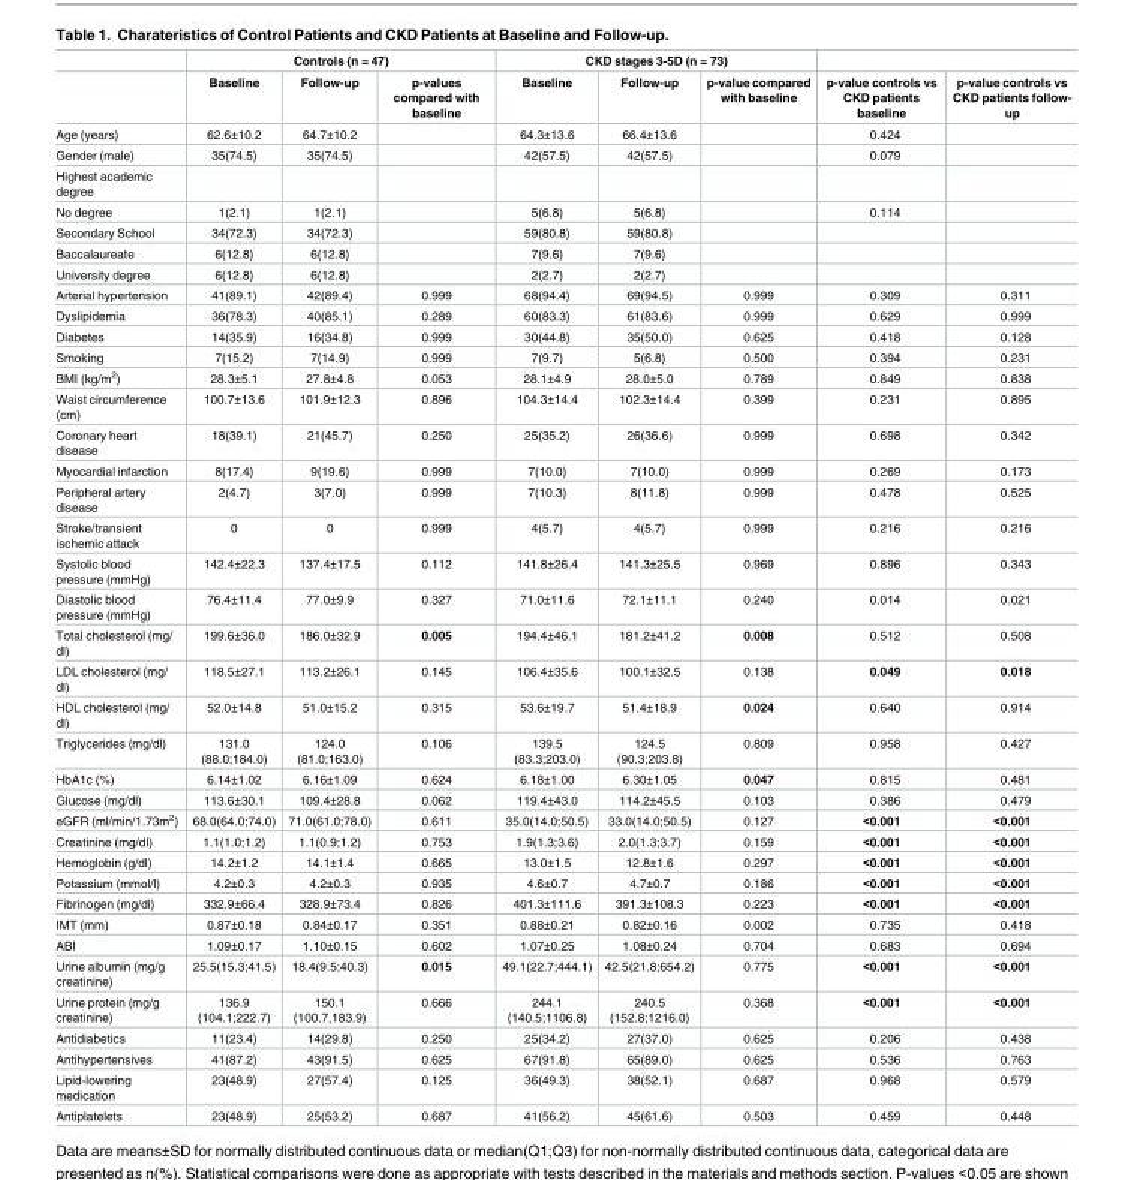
<table><thead><tr><td rowspan="2"></td><td colspan="3">Controls (n = 47)</td><td colspan="3">CKD stages 3-5D (n = 73)</td><td rowspan="2">p-value controls vs CKD patients baseline</td><td rowspan="2">p-value controls vs CKD patients follow- up</td></tr><tr><td>Baseline</td><td>Follow-up</td><td>p-values compared with baseline</td><td>Baseline</td><td>Follow-up</td><td>p-value compared with baseline</td></tr></thead><tbody><tr><td>Age (years)</td><td>62.6±10.2</td><td>64.7±10.2</td><td></td><td>64.3±13.6</td><td>66.4±13.6</td><td></td><td>0.424</td><td></td></tr><tr><td>Gender (male)</td><td>35(74.5)</td><td>35(74.5)</td><td></td><td>42(57.5)</td><td>42(57.5)</td><td></td><td>0.079</td><td></td></tr><tr><td colspan="9">Highest academic degree</td></tr><tr><td>No degree</td><td>1(2.1)</td><td>1(2.1)</td><td></td><td>5(6.8)</td><td>5(6.8)</td><td></td><td>0.114</td><td></td></tr><tr><td>Secondary School</td><td>34(72.3)</td><td>34(72.3)</td><td></td><td>59(80.8)</td><td>59(80.8)</td><td></td><td></td><td></td></tr><tr><td>Baccalaureate</td><td>6(12.8)</td><td>6(12.8)</td><td></td><td>7(9.6)</td><td>7(9.6)</td><td></td><td></td><td></td></tr><tr><td>University degree</td><td>6(12.8)</td><td>6(12.8)</td><td></td><td>2(2.7)</td><td>2(2.7)</td><td></td><td></td><td></td></tr><tr><td>Arterial hypertension</td><td>41(89.1)</td><td>42(89.4)</td><td>0.999</td><td>68(94.4)</td><td>69(94.5)</td><td>0.999</td><td>0.309</td><td>0.311</td></tr><tr><td>Dyslipidemia</td><td>36(78.3)</td><td>40(85.1)</td><td>0.289</td><td>60(83.3)</td><td>61(83.6)</td><td>0.999</td><td>0.629</td><td>0.999</td></tr><tr><td>Diabetes</td><td>14(35.9)</td><td>16(34.8)</td><td>0.999</td><td>30(44.8)</td><td>35(50.0)</td><td>0.625</td><td>0.418</td><td>0.128</td></tr><tr><td>Smoking</td><td>7(15.2)</td><td>7(14.9)</td><td>0.999</td><td>7(9.7)</td><td>5(6.8)</td><td>0.500</td><td>0.394</td><td>0.231</td></tr><tr><td>BMI (kg/m<sup>2</sup>)</td><td>28.3±5.1</td><td>27.8±4.8</td><td>0.053</td><td>28.1±4.9</td><td>28.0±5.0</td><td>0.789</td><td>0.849</td><td>0.838</td></tr><tr><td>Waist circumference (cm)</td><td>100.7±13.6</td><td>101.9±12.3</td><td>0.896</td><td>104.3±14.4</td><td>102.3±14.4</td><td>0.399</td><td>0.231</td><td>0.895</td></tr><tr><td>Coronary heart disease</td><td>18(39.1)</td><td>21(45.7)</td><td>0.250</td><td>25(35.2)</td><td>26(36.6)</td><td>0.999</td><td>0.698</td><td>0.342</td></tr><tr><td>Myocardial infarction</td><td>8(17.4)</td><td>9(19.6)</td><td>0.999</td><td>7(10.0)</td><td>7(10.0)</td><td>0.999</td><td>0.269</td><td>0.173</td></tr><tr><td>Peripheral artery disease</td><td>2(4.7)</td><td>3(7.0)</td><td>0.999</td><td>7(10.3)</td><td>8(11.8)</td><td>0.999</td><td>0.478</td><td>0.525</td></tr><tr><td>Stroke/transient ischemic attack</td><td>0</td><td>0</td><td>0.999</td><td>4(5.7)</td><td>4(5.7)</td><td>0.999</td><td>0.216</td><td>0.216</td></tr><tr><td>Systolic blood pressure (mmHg)</td><td>142.4±22.3</td><td>137.4±17.5</td><td>0.112</td><td>141.8±26.4</td><td>141.3±25.5</td><td>0.969</td><td>0.896</td><td>0.343</td></tr><tr><td>Diastolic blood pressure (mmHg)</td><td>76.4±11.4</td><td>77.0±9.9</td><td>0.327</td><td>71.0±11.6</td><td>72.1±11.1</td><td>0.240</td><td>0.014</td><td>0.021</td></tr><tr><td>Total cholesterol (mg/ dl)</td><td>199.6±36.0</td><td>186.0±32.9</td><td>0.005</td><td>194.4±46.1</td><td>181.2±41.2</td><td>0.008</td><td>0.512</td><td>0.508</td></tr><tr><td>LDL cholesterol (mg/ dl)</td><td>118.5±27.1</td><td>113.2±26.1</td><td>0.145</td><td>106.4±35.6</td><td>100.1±32.5</td><td>0.138</td><td>0.049</td><td>0.018</td></tr><tr><td>HDL cholesterol (mg/ dl)</td><td>52.0±14.8</td><td>51.0±15.2</td><td>0.315</td><td>53.6±19.7</td><td>51.4±18.9</td><td>0.024</td><td>0.640</td><td>0.914</td></tr><tr><td>Triglycerides (mg/dl)</td><td>131.0 (88.0;184.0)</td><td>124.0 (81.0;163.0)</td><td>0.106</td><td>139.5 (83.3;203.0)</td><td>124.5 (90.3;203.8)</td><td>0.809</td><td>0.958</td><td>0.427</td></tr><tr><td>HbA1c (%)</td><td>6.14±1.02</td><td>6.16±1.09</td><td>0.624</td><td>6.18±1.00</td><td>6.30±1.05</td><td>0.047</td><td>0.815</td><td>0.481</td></tr><tr><td>Glucose (mg/dl)</td><td>113.6±30.1</td><td>109.4±28.8</td><td>0.062</td><td>119.4±43.0</td><td>114.2±45.5</td><td>0.103</td><td>0.386</td><td>0.479</td></tr><tr><td>eGFR (ml/min/1.73m<sup>2</sup>)</td><td>68.0(64.0;74.0)</td><td>71.0(61.0;78.0)</td><td>0.611</td><td>35.0(14.0;50.5)</td><td>33.0(14.0;50.5)</td><td>0.127</td><td>&lt;0.001</td><td>&lt;0.001</td></tr><tr><td>Creatinine (mg/dl)</td><td>1.1(1.0;1.2)</td><td>1.1(0.9;1.2)</td><td>0.753</td><td>1.9(1.3;3.6)</td><td>2.0(1.3;3.7)</td><td>0.159</td><td>&lt;0.001</td><td>&lt;0.001</td></tr><tr><td>Hemoglobin (g/dl)</td><td>14.2±1.2</td><td>14.1±1.4</td><td>0.665</td><td>13.0±1.5</td><td>12.8±1.6</td><td>0.297</td><td>&lt;0.001</td><td>&lt;0.001</td></tr><tr><td>Potassium (mmol/l)</td><td>4.2±0.3</td><td>4.2±0.3</td><td>0.935</td><td>4.6±0.7</td><td>4.7±0.7</td><td>0.186</td><td>&lt;0.001</td><td>&lt;0.001</td></tr><tr><td>Fibrinogen (mg/dl)</td><td>332.9±66.4</td><td>328.9±73.4</td><td>0.826</td><td>401.3±111.6</td><td>391.3±108.3</td><td>0.223</td><td>&lt;0.001</td><td>&lt;0.001</td></tr><tr><td>IMT (mm)</td><td>0.87±0.18</td><td>0.84±0.17</td><td>0.351</td><td>0.88±0.21</td><td>0.82±0.16</td><td>0.002</td><td>0.735</td><td>0.418</td></tr><tr><td>ABI</td><td>1.09±0.17</td><td>1.10±0.15</td><td>0.602</td><td>1.07±0.25</td><td>1.08±0.24</td><td>0.704</td><td>0.683</td><td>0.694</td></tr><tr><td>Urine albumin (mg/g creatinine)</td><td>25.5(15.3;41.5)</td><td>18.4(9.5;40.3)</td><td>0.015</td><td>49.1(22.7;444.1)</td><td>42.5(21.8;654.2)</td><td>0.775</td><td>&lt;0.001</td><td>&lt;0.001</td></tr><tr><td>Urine protein (mg/g creatinine)</td><td>136.9 (104.1;222.7)</td><td>150.1 (100.7,183.9)</td><td>0.666</td><td>244.1 (140.5;1106.8)</td><td>240.5 (152.8;1216.0)</td><td>0.368</td><td>&lt;0.001</td><td>&lt;0.001</td></tr><tr><td>Antidiabetics</td><td>11(23.4)</td><td>14(29.8)</td><td>0.250</td><td>25(34.2)</td><td>27(37.0)</td><td>0.625</td><td>0.206</td><td>0.438</td></tr><tr><td>Antihypertensives</td><td>41(87.2)</td><td>43(91.5)</td><td>0.625</td><td>67(91.8)</td><td>65(89.0)</td><td>0.625</td><td>0.536</td><td>0.763</td></tr><tr><td>Lipid-lowering medication</td><td>23(48.9)</td><td>27(57.4)</td><td>0.125</td><td>36(49.3)</td><td>38(52.1)</td><td>0.687</td><td>0.968</td><td>0.579</td></tr><tr><td>Antiplatelets</td><td>23(48.9)</td><td>25(53.2)</td><td>0.687</td><td>41(56.2)</td><td>45(61.6)</td><td>0.503</td><td>0.459</td><td>0.448</td></tr></tbody></table>